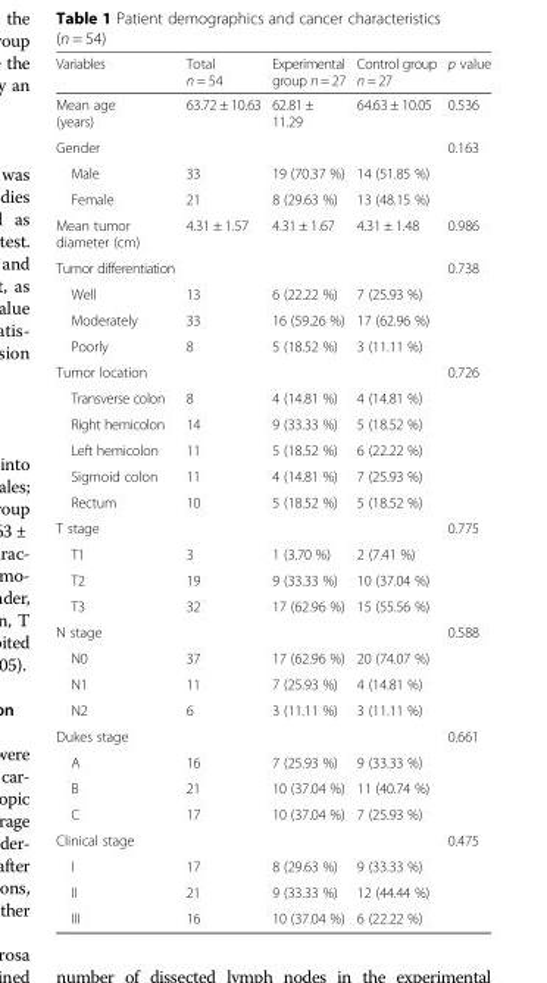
<table><thead><tr><td>Variables</td><td>Total n = 54</td><td>Experimental group n = 27</td><td>Control group n = 27</td><td>p value</td></tr></thead><tbody><tr><td>Mean age (years)</td><td>63.72 ± 10.63</td><td>62.81 ± 11.29</td><td>64.63 ± 10.05</td><td>0.536</td></tr><tr><td>Gender</td><td></td><td></td><td></td><td>0.163</td></tr><tr><td>Male</td><td>33</td><td>19 (70.37 %)</td><td>14 (51.85 %)</td><td></td></tr><tr><td>Female</td><td>21</td><td>8 (29.63 %)</td><td>13 (48.15 %)</td><td></td></tr><tr><td>Mean tumor diameter (cm)</td><td>4.31 ± 1.57</td><td>4.31 ± 1.67</td><td>4.31 ± 1.48</td><td>0.986</td></tr><tr><td>Tumor differentiation</td><td></td><td></td><td></td><td>0.738</td></tr><tr><td>Well</td><td>13</td><td>6 (22.22 %)</td><td>7 (25.93 %)</td><td rowspan="3"></td></tr><tr><td>Moderately</td><td>33</td><td>16 (59.26 %)</td><td>17 (62.96 %)</td></tr><tr><td>Poorly</td><td>8</td><td>5 (18.52 %)</td><td>3 (11.11 %)</td></tr><tr><td>Tumor location</td><td></td><td></td><td></td><td>0.726</td></tr><tr><td>Transverse colon</td><td>8</td><td>4 (14.81 %)</td><td>4 (14.81 %)</td><td rowspan="5"></td></tr><tr><td>Right hemicolon</td><td>14</td><td>9 (33.33 %)</td><td>5 (18.52 %)</td></tr><tr><td>Left hemicolon</td><td>11</td><td>5 (18.52 %)</td><td>6 (22.22 %)</td></tr><tr><td>Sigmoid colon</td><td>11</td><td>4 (14.81 %)</td><td>7 (25.93 %)</td></tr><tr><td>Rectum</td><td>10</td><td>5 (18.52 %)</td><td>5 (18.52 %)</td></tr><tr><td>T stage</td><td></td><td></td><td></td><td>0.775</td></tr><tr><td>T1</td><td>3</td><td>1 (3.70 %)</td><td>2 (7.41 %)</td><td rowspan="2"></td></tr><tr><td>T2</td><td>19</td><td>9 (33.33 %)</td><td>10 (37.04 %)</td></tr><tr><td>T3</td><td>32</td><td>17 (62.96 %)</td><td>15 (55.56 %)</td><td></td></tr><tr><td>N stage</td><td></td><td></td><td></td><td>0.588</td></tr><tr><td>N0</td><td>37</td><td>17 (62.96 %)</td><td>20 (74.07 %)</td><td rowspan="3"></td></tr><tr><td>N1</td><td>11</td><td>7 (25.93 %)</td><td>4 (14.81 %)</td></tr><tr><td>N2</td><td>6</td><td>3 (11.11 %)</td><td>3 (11.11 %)</td></tr><tr><td>Dukes stage</td><td></td><td></td><td></td><td>0.661</td></tr><tr><td>A</td><td>16</td><td>7 (25.93 %)</td><td>9 (33.33 %)</td><td rowspan="3"></td></tr><tr><td>B</td><td>21</td><td>10 (37.04 %)</td><td>11 (40.74 %)</td></tr><tr><td>C</td><td>17</td><td>10 (37.04 %)</td><td>7 (25.93 %)</td></tr><tr><td>Clinical stage</td><td></td><td></td><td></td><td>0.475</td></tr><tr><td>I</td><td>17</td><td>8 (29.63 %)</td><td>9 (33.33 %)</td><td></td></tr><tr><td>II</td><td>21</td><td>9 (33.33 %)</td><td>12 (44.44 %)</td><td></td></tr><tr><td>III</td><td>16</td><td>10 (37.04 %)</td><td>6 (22.22 %)</td><td></td></tr></tbody></table>